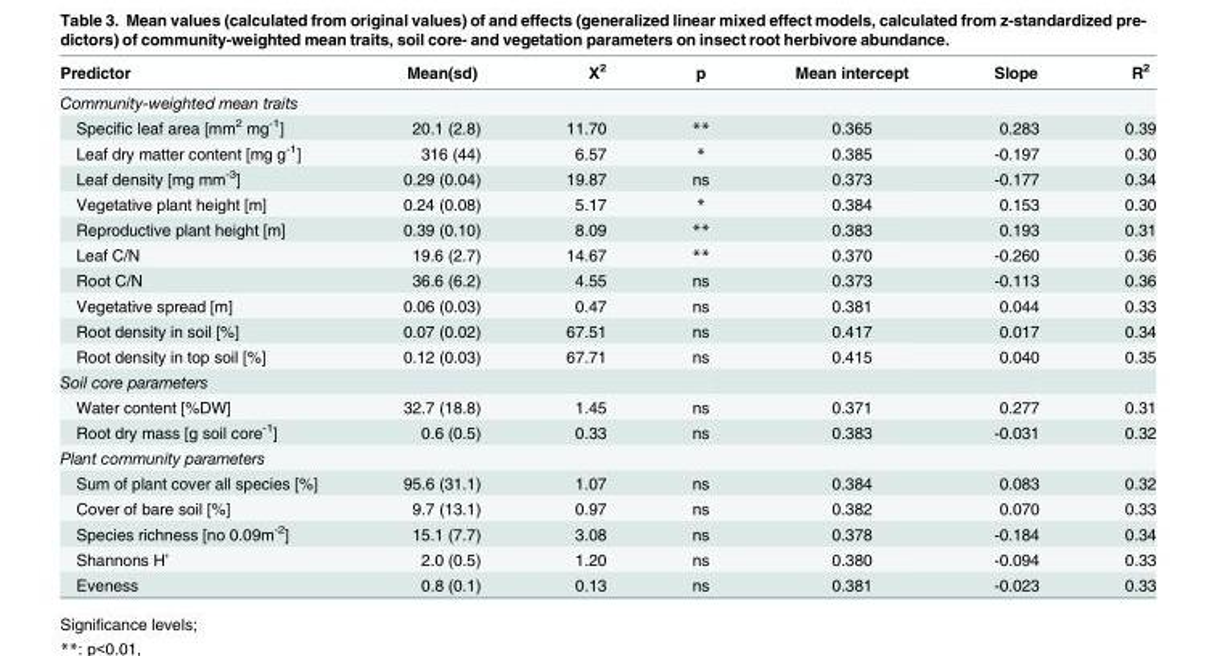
<table><thead><tr><td>Predictor</td><td>Mean(sd)</td><td>Χ<sup>2</sup></td><td>p</td><td>Mean intercept</td><td>Slope</td><td>R<sup>2</sup></td></tr></thead><tbody><tr><td colspan="7">Community-weighted mean traits</td></tr><tr><td>Specific leaf area [mm<sup>2</sup> mg<sup>-1</sup>]</td><td>20.1 (2.8)</td><td>11.70</td><td>**</td><td>0.365</td><td>0.283</td><td>0.39</td></tr><tr><td>Leaf dry matter content [mg g<sup>-1</sup>]</td><td>316 (44)</td><td>6.57</td><td>*</td><td>0.385</td><td>-0.197</td><td>0.30</td></tr><tr><td>Leaf density [mg mm<sup>-3</sup>]</td><td>0.29 (0.04)</td><td>19.87</td><td>ns</td><td>0.373</td><td>-0.177</td><td>0.34</td></tr><tr><td>Vegetative plant height [m]</td><td>0.24 (0.08)</td><td>5.17</td><td>*</td><td>0.384</td><td>0.153</td><td>0.30</td></tr><tr><td>Reproductive plant height [m]</td><td>0.39 (0.10)</td><td>8.09</td><td>**</td><td>0.383</td><td>0.193</td><td>0.31</td></tr><tr><td>Leaf C/N</td><td>19.6 (2.7)</td><td>14.67</td><td>**</td><td>0.370</td><td>-0.260</td><td>0.36</td></tr><tr><td>Root C/N</td><td>36.6 (6.2)</td><td>4.55</td><td>ns</td><td>0.373</td><td>-0.113</td><td>0.36</td></tr><tr><td>Vegetative spread [m]</td><td>0.06 (0.03)</td><td>0.47</td><td>ns</td><td>0.381</td><td>0.044</td><td>0.33</td></tr><tr><td>Root density in soil [%]</td><td>0.07 (0.02)</td><td>67.51</td><td>ns</td><td>0.417</td><td>0.017</td><td>0.34</td></tr><tr><td>Root density in top soil [%]</td><td>0.12 (0.03)</td><td>67.71</td><td>ns</td><td>0.415</td><td>0.040</td><td>0.35</td></tr><tr><td colspan="7">Soil core parameters</td></tr><tr><td>Water content [%DW]</td><td>32.7 (18.8)</td><td>1.45</td><td>ns</td><td>0.371</td><td>0.277</td><td>0.31</td></tr><tr><td>Root dry mass [g soil core<sup>-1</sup>]</td><td>0.6 (0.5)</td><td>0.33</td><td>ns</td><td>0.383</td><td>-0.031</td><td>0.32</td></tr><tr><td colspan="7">Plant community parameters</td></tr><tr><td>Sum of plant cover all species [%]</td><td>95.6 (31.1)</td><td>1.07</td><td>ns</td><td>0.384</td><td>0.083</td><td>0.32</td></tr><tr><td>Cover of bare soil [%]</td><td>9.7 (13.1)</td><td>0.97</td><td>ns</td><td>0.382</td><td>0.070</td><td>0.33</td></tr><tr><td>Species richness [no 0.09m<sup>-2</sup>]</td><td>15.1 (7.7)</td><td>3.08</td><td>ns</td><td>0.378</td><td>-0.184</td><td>0.34</td></tr><tr><td>Shannons H’</td><td>2.0 (0.5)</td><td>1.20</td><td>ns</td><td>0.380</td><td>-0.094</td><td>0.33</td></tr><tr><td>Eveness</td><td>0.8 (0.1)</td><td>0.13</td><td>ns</td><td>0.381</td><td>-0.023</td><td>0.33</td></tr></tbody></table>